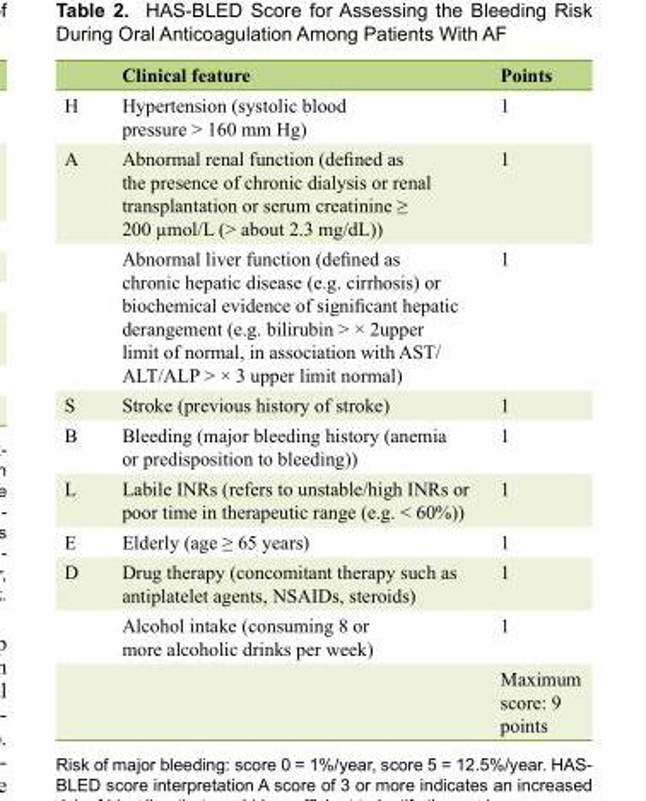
<table><thead><tr><td></td><td>Clinical feature</td><td>Points</td></tr></thead><tbody><tr><td>H</td><td>Hypertension (systolic blood pressure &gt; 160 mm Hg)</td><td>1</td></tr><tr><td rowspan="2">A</td><td>Abnormal renal function (defined as the presence of chronic dialysis or renal transplantation or serum creatinine ≥ 200 µmol/L (&gt; about 2.3 mg/dL))</td><td>1</td></tr><tr><td>Abnormal liver function (defined as chronic hepatic disease (e.g. cirrhosis) or biochemical evidence of significant hepatic derangement (e.g. bilirubin &gt; × 2upper limit of normal, in association with AST/ ALT/ALP &gt; × 3 upper limit normal)</td><td>1</td></tr><tr><td>S</td><td>Stroke (previous history of stroke)</td><td>1</td></tr><tr><td>B</td><td>Bleeding (major bleeding history (anemia or predisposition to bleeding))</td><td>1</td></tr><tr><td>L</td><td>Labile INRs (refers to unstable/high INRs or poor time in therapeutic range (e.g. &lt; 60%))</td><td>1</td></tr><tr><td>E</td><td>Elderly (age ≥ 65 years)</td><td>1</td></tr><tr><td rowspan="3">D</td><td>Drug therapy (concomitant therapy such as antiplatelet agents, NSAIDs, steroids)</td><td>1</td></tr><tr><td>Alcohol intake (consuming 8 or more alcoholic drinks per week)</td><td>1</td></tr><tr><td></td><td>Maximum score: 9 points</td></tr></tbody></table>